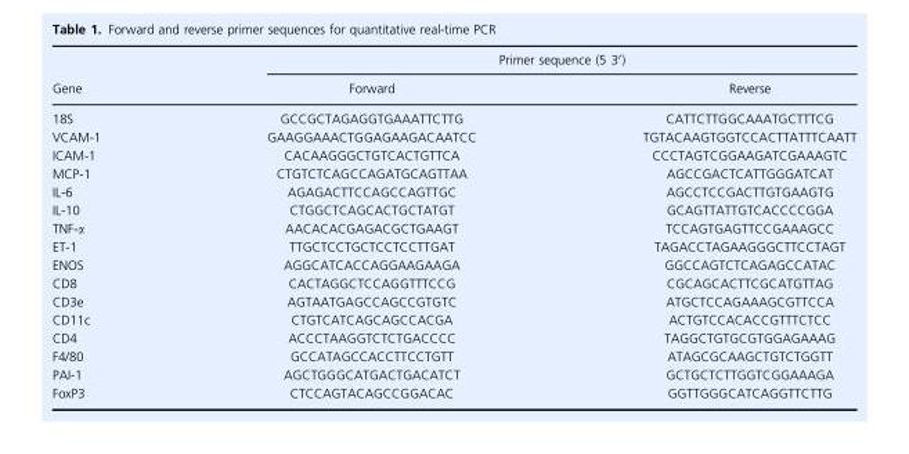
<table><thead><tr><td rowspan="2">Gene</td><td colspan="2">Primer sequence (5 3′)</td></tr><tr><td>Forward</td><td>Reverse</td></tr></thead><tbody><tr><td>18S</td><td>GCCGCTAGAGGTGAAATTCTTG</td><td>CATTCTTGGCAAATGCTTTCG</td></tr><tr><td>VCAM-1</td><td>GAAGGAAACTGGAGAAGACAATCC</td><td>TGTACAAGTGGTCCACTTATTTCAATT</td></tr><tr><td>ICAM-1</td><td>CACAAGGGCTGTCACTGTTCA</td><td>CCCTAGTCGGAAGATCGAAAGTC</td></tr><tr><td>MCP-1</td><td>CTGTCTCAGCCAGATGCAGTTAA</td><td>AGCCGACTCATTGGGATCAT</td></tr><tr><td>IL-6</td><td>AGAGACTTCCAGCCAGTTGC</td><td>AGCCTCCGACTTGTGAAGTG</td></tr><tr><td>IL-10</td><td>CTGGCTCAGCACTGCTATGT</td><td>GCAGTTATTGTCACCCCGGA</td></tr><tr><td>TNF-α</td><td>AACACACGAGACGCTGAAGT</td><td>TCCAGTGAGTTCCGAAAGCC</td></tr><tr><td>ET-1</td><td>TTGCTCCTGCTCCTCCTTGAT</td><td>TAGACCTAGAAGGGCTTCCTAGT</td></tr><tr><td>ENOS</td><td>AGGCATCACCAGGAAGAAGA</td><td>GGCCAGTCTCAGAGCCATAC</td></tr><tr><td>CD8</td><td>CACTAGGCTCCAGGTTTCCG</td><td>CGCAGCACTTCGCATGTTAG</td></tr><tr><td>CD3e</td><td>AGTAATGAGCCAGCCGTGTC</td><td>ATGCTCCAGAAAGCGTTCCA</td></tr><tr><td>CD11c</td><td>CTGTCATCAGCAGCCACGA</td><td>ACTGTCCACACCGTTTCTCC</td></tr><tr><td>CD4</td><td>ACCCTAAGGTCTCTGACCCC</td><td>TAGGCTGTGCGTGGAGAAAG</td></tr><tr><td>F4/80</td><td>GCCATAGCCACCTTCCTGTT</td><td>ATAGCGCAAGCTGTCTGGTT</td></tr><tr><td>PAI-1</td><td>AGCTGGGCATGACTGACATCT</td><td>GCTGCTCTTGGTCGGAAAGA</td></tr><tr><td>FoxP3</td><td>CTCCAGTACAGCCGGACAC</td><td>GGTTGGGCATCAGGTTCTTG</td></tr></tbody></table>